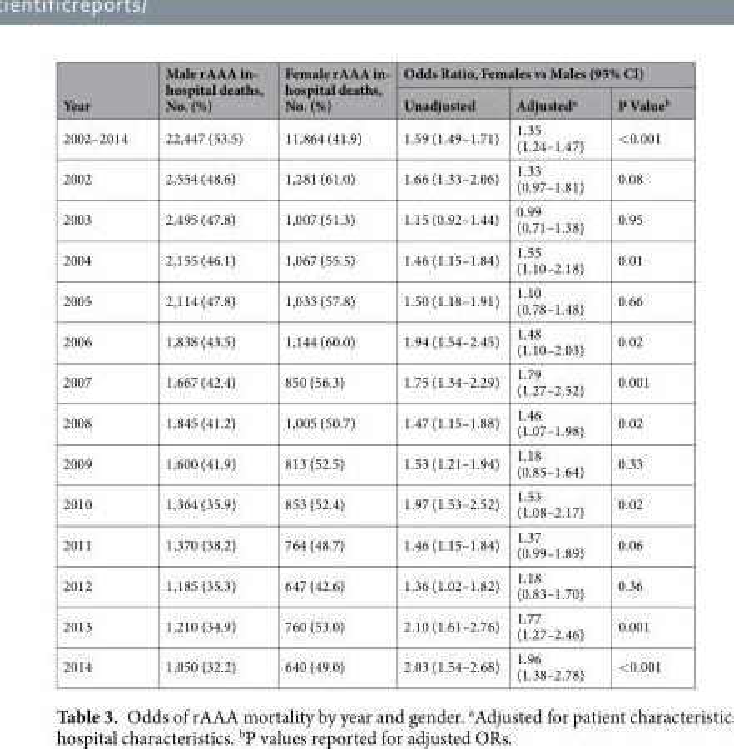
<table><thead><tr><td rowspan="2">Year</td><td rowspan="2">Male rAAA in- hospital deaths, No. (%)</td><td rowspan="2">Female rAAA in- hospital deaths, No. (%)</td><td colspan="3">Odds Ratio, Females vs Males (95% CI)</td></tr><tr><td>Unadjusted</td><td>Adjusted<sup>a</sup></td><td>P Value<sup>b</sup></td></tr></thead><tbody><tr><td>2002–2014</td><td>22,447 (53.5)</td><td>11,864 (41.9)</td><td>1.59 (1.49–1.71)</td><td>1.35 (1.24–1.47)</td><td>&lt;0.001</td></tr><tr><td>2002</td><td>2,554 (48.6)</td><td>1,281 (61.0)</td><td>1.66 (1.33–2.06)</td><td>1.33 (0.97–1.81)</td><td>0.08</td></tr><tr><td>2003</td><td>2,495 (47.8)</td><td>1,007 (51.3)</td><td>1.15 (0.92–1.44)</td><td>0.99 (0.71–1.38)</td><td>0.95</td></tr><tr><td>2004</td><td>2,155 (46.1)</td><td>1,067 (55.5)</td><td>1.46 (1.15–1.84)</td><td>1.55 (1.10–2.18)</td><td>0.01</td></tr><tr><td>2005</td><td>2,114 (47.8)</td><td>1,033 (57.8)</td><td>1.50 (1.18–1.91)</td><td>1.10 (0.78–1.48)</td><td>0.66</td></tr><tr><td>2006</td><td>1,838 (43.5)</td><td>1,144 (60.0)</td><td>1.94 (1.54–2.45)</td><td>1.48 (1.10–2.03)</td><td>0.02</td></tr><tr><td>2007</td><td>1,667 (42.4)</td><td>850 (56.3)</td><td>1.75 (1.34–2.29)</td><td>1.79 (1.27–2.52)</td><td>0.001</td></tr><tr><td>2008</td><td>1,845 (41.2)</td><td>1,005 (50.7)</td><td>1.47 (1.15–1.88)</td><td>1.46 (1.07–1.98)</td><td>0.02</td></tr><tr><td>2009</td><td>1,600 (41.9)</td><td>813 (52.5)</td><td>1.53 (1.21–1.94)</td><td>1.18 (0.85–1.64)</td><td>0.33</td></tr><tr><td>2010</td><td>1,364 (35.9)</td><td>853 (52.4)</td><td>1.97 (1.53–2.52)</td><td>1.53 (1.08–2.17)</td><td>0.02</td></tr><tr><td>2011</td><td>1,370 (38.2)</td><td>764 (48.7)</td><td>1.46 (1.15–1.84)</td><td>1.37 (0.99–1.89)</td><td>0.06</td></tr><tr><td>2012</td><td>1,185 (35.3)</td><td>647 (42.6)</td><td>1.36 (1.02–1.82)</td><td>1.18 (0.83–1.70)</td><td>0.36</td></tr><tr><td>2013</td><td>1,210 (34.9)</td><td>760 (53.0)</td><td>2.10 (1.61–2.76)</td><td>1.77 (1.27–2.46)</td><td>0.001</td></tr><tr><td>2014</td><td>1,050 (32.2)</td><td>640 (49.0)</td><td>2.03 (1.54–2.68)</td><td>1.96 (1.38–2.78)</td><td>&lt;0.001</td></tr></tbody></table>